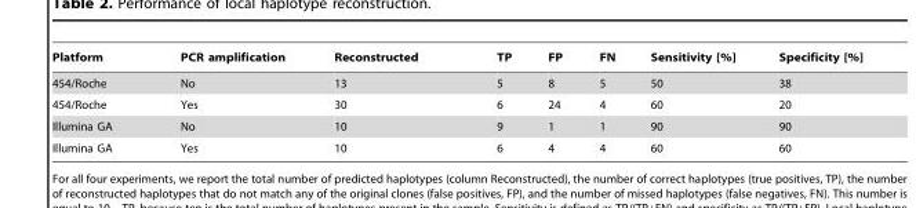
<table><thead><tr><td>Platform</td><td>PCR amplification</td><td>Reconstructed</td><td>TP</td><td>FP</td><td>FN</td><td>Sensitivity [%]</td><td>Specificity [%]</td></tr></thead><tbody><tr><td>454/Roche</td><td>No</td><td>13</td><td>5</td><td>8</td><td>5</td><td>50</td><td>38</td></tr><tr><td>454/Roche</td><td>Yes</td><td>30</td><td>6</td><td>24</td><td>4</td><td>60</td><td>20</td></tr><tr><td>Illumina GA</td><td>No</td><td>10</td><td>9</td><td>1</td><td>1</td><td>90</td><td>90</td></tr><tr><td>Illumina GA</td><td>Yes</td><td>10</td><td>6</td><td>4</td><td>4</td><td>60</td><td>60</td></tr></tbody></table>